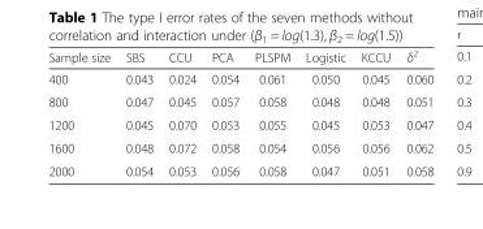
<table><thead><tr><td>Sample size</td><td>SBS</td><td>CCU</td><td>PCA</td><td>PLSPM</td><td>Logistic</td><td>KCCU</td><td>δ<sup>2</sup></td></tr></thead><tbody><tr><td>400</td><td>0.043</td><td>0.024</td><td>0.054</td><td>0.061</td><td>0.050</td><td>0.045</td><td>0.060</td></tr><tr><td>800</td><td>0.047</td><td>0.045</td><td>0.057</td><td>0.058</td><td>0.048</td><td>0.048</td><td>0.051</td></tr><tr><td>1200</td><td>0.045</td><td>0.070</td><td>0.053</td><td>0.055</td><td>0.045</td><td>0.053</td><td>0.047</td></tr><tr><td>1600</td><td>0.048</td><td>0.072</td><td>0.058</td><td>0.054</td><td>0.056</td><td>0.056</td><td>0.062</td></tr><tr><td>2000</td><td>0.054</td><td>0.053</td><td>0.056</td><td>0.058</td><td>0.047</td><td>0.051</td><td>0.058</td></tr></tbody></table>